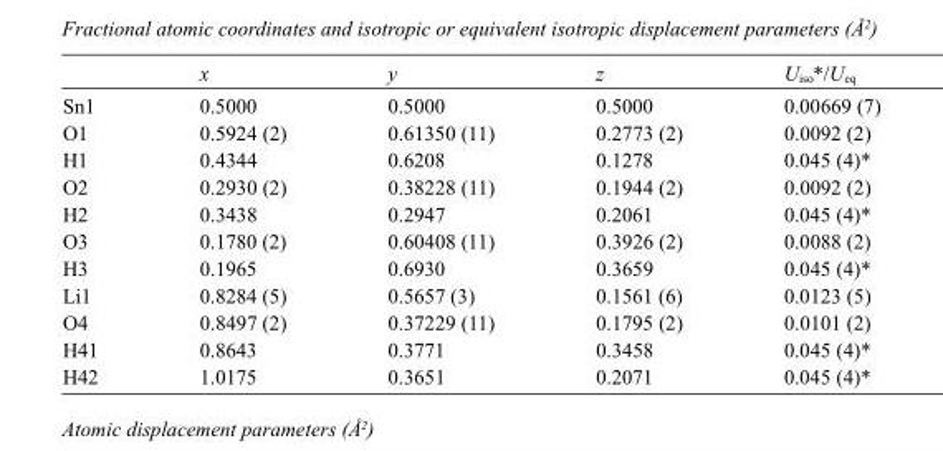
<table><thead><tr><td></td><td>x</td><td>y</td><td>z</td><td>U<sub>iso</sub>*/U<sub>eq</sub></td></tr></thead><tbody><tr><td>Sn1</td><td>0.5000</td><td>0.5000</td><td>0.5000</td><td>0.00669 (7)</td></tr><tr><td>O1</td><td>0.5924 (2)</td><td>0.61350 (11)</td><td>0.2773 (2)</td><td>0.0092 (2)</td></tr><tr><td>H1</td><td>0.4344</td><td>0.6208</td><td>0.1278</td><td>0.045 (4)*</td></tr><tr><td>O2</td><td>0.2930 (2)</td><td>0.38228 (11)</td><td>0.1944 (2)</td><td>0.0092 (2)</td></tr><tr><td>H2</td><td>0.3438</td><td>0.2947</td><td>0.2061</td><td>0.045 (4)*</td></tr><tr><td>O3</td><td>0.1780 (2)</td><td>0.60408 (11)</td><td>0.3926 (2)</td><td>0.0088 (2)</td></tr><tr><td>H3</td><td>0.1965</td><td>0.6930</td><td>0.3659</td><td>0.045 (4)*</td></tr><tr><td>Li1</td><td>0.8284 (5)</td><td>0.5657 (3)</td><td>0.1561 (6)</td><td>0.0123 (5)</td></tr><tr><td>O4</td><td>0.8497 (2)</td><td>0.37229 (11)</td><td>0.1795 (2)</td><td>0.0101 (2)</td></tr><tr><td>H41</td><td>0.8643</td><td>0.3771</td><td>0.3458</td><td>0.045 (4)*</td></tr><tr><td>H42</td><td>1.0175</td><td>0.3651</td><td>0.2071</td><td>0.045 (4)*</td></tr></tbody></table>